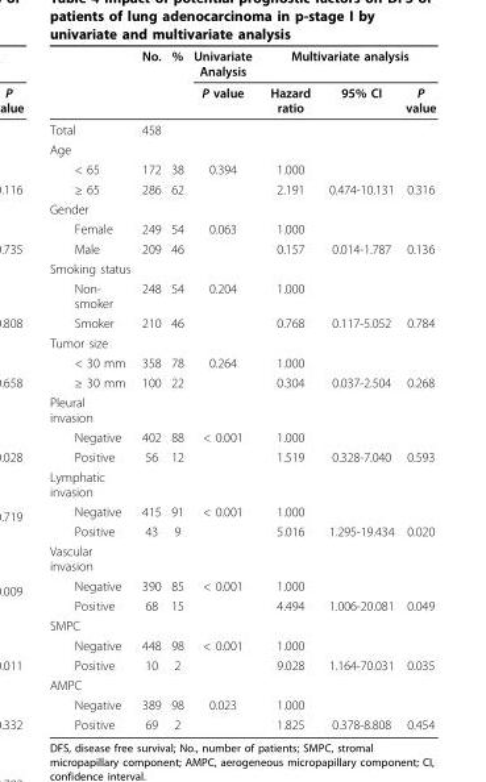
<table><thead><tr><td rowspan="2"></td><td rowspan="2">No.</td><td rowspan="2">%</td><td rowspan="2">Univariate Analysis P value</td><td colspan="3">Multivariate analysis</td></tr><tr><td>Hazard ratio</td><td>95% CI</td><td>P value</td></tr></thead><tbody><tr><td>Total</td><td>458</td><td></td><td></td><td></td><td></td><td></td></tr><tr><td colspan="7">Age</td></tr><tr><td>&lt; 65</td><td>172</td><td>38</td><td>0.394</td><td>1.000</td><td></td><td></td></tr><tr><td>≥ 65</td><td>286</td><td>62</td><td></td><td>2.191</td><td>0.474-10.131</td><td>0.316</td></tr><tr><td colspan="7">Gender</td></tr><tr><td>Female</td><td>249</td><td>54</td><td>0.063</td><td>1.000</td><td></td><td></td></tr><tr><td>Male</td><td>209</td><td>46</td><td></td><td>0.157</td><td>0.014-1.787</td><td>0.136</td></tr><tr><td colspan="7">Smoking status</td></tr><tr><td>Non- smoker</td><td>248</td><td>54</td><td>0.204</td><td>1.000</td><td></td><td></td></tr><tr><td>Smoker</td><td>210</td><td>46</td><td></td><td>0.768</td><td>0.117-5.052</td><td>0.784</td></tr><tr><td colspan="7">Tumor size</td></tr><tr><td>&lt; 30 mm</td><td>358</td><td>78</td><td>0.264</td><td>1.000</td><td></td><td></td></tr><tr><td>≥ 30 mm</td><td>100</td><td>22</td><td></td><td>0.304</td><td>0.037-2.504</td><td>0.268</td></tr><tr><td colspan="7">Pleural invasion</td></tr><tr><td>Negative</td><td>402</td><td>88</td><td>&lt; 0.001</td><td>1.000</td><td></td><td></td></tr><tr><td>Positive</td><td>56</td><td>12</td><td></td><td>1.519</td><td>0.328-7.040</td><td>0.593</td></tr><tr><td colspan="7">Lymphatic invasion</td></tr><tr><td>Negative</td><td>415</td><td>91</td><td>&lt; 0.001</td><td>1.000</td><td></td><td></td></tr><tr><td>Positive</td><td>43</td><td>9</td><td></td><td>5.016</td><td>1.295-19.434</td><td>0.020</td></tr><tr><td colspan="7">Vascular invasion</td></tr><tr><td>Negative</td><td>390</td><td>85</td><td>&lt; 0.001</td><td>1.000</td><td></td><td></td></tr><tr><td>Positive</td><td>68</td><td>15</td><td></td><td>4.494</td><td>1.006-20.081</td><td>0.049</td></tr><tr><td colspan="7">SMPC</td></tr><tr><td>Negative</td><td>448</td><td>98</td><td>&lt; 0.001</td><td>1.000</td><td></td><td></td></tr><tr><td>Positive</td><td>10</td><td>2</td><td></td><td>9.028</td><td>1.164-70.031</td><td>0.035</td></tr><tr><td colspan="7">AMPC</td></tr><tr><td>Negative</td><td>389</td><td>98</td><td>0.023</td><td>1.000</td><td></td><td></td></tr><tr><td>Positive</td><td>69</td><td>2</td><td></td><td>1.825</td><td>0.378-8.808</td><td>0.454</td></tr></tbody></table>